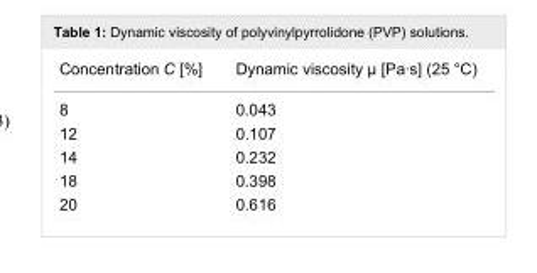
<table><tbody><tr><td>Concentration C [%]</td><td>Dynamic viscosity µ [Pa·s] (25 °C)</td></tr><tr><td>8</td><td>0.043</td></tr><tr><td>12</td><td>0.107</td></tr><tr><td>14</td><td>0.232</td></tr><tr><td>18</td><td>0.398</td></tr><tr><td>20</td><td>0.616</td></tr></tbody></table>